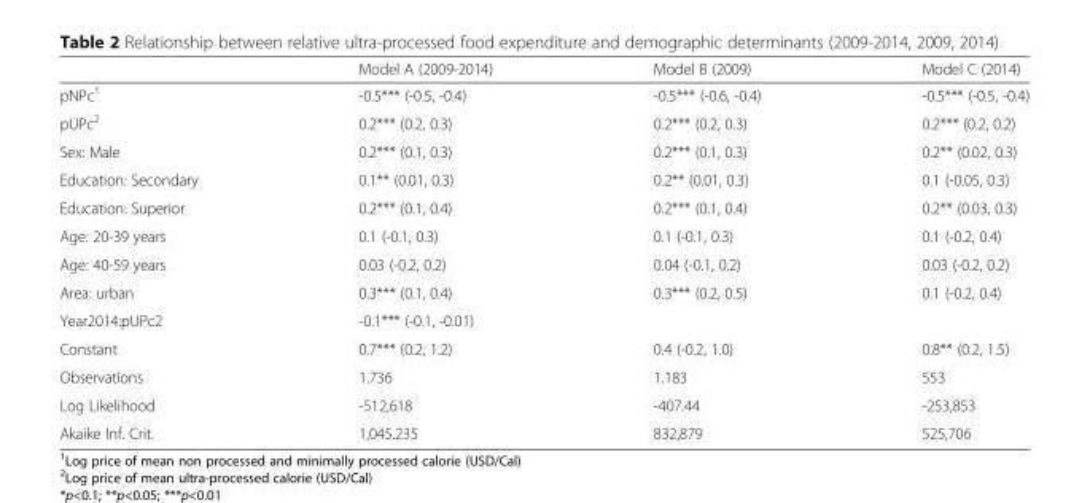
<table><thead><tr><td></td><td>Model A (2009-2014)</td><td>Model B (2009)</td><td>Model C (2014)</td></tr></thead><tbody><tr><td>pNPc<sup>1</sup></td><td>-0.5*** (-0.5, -0.4)</td><td>-0.5*** (-0.6, -0.4)</td><td>-0.5*** (-0.5, -0.4)</td></tr><tr><td>pUPc<sup>2</sup></td><td>0.2*** (0.2, 0.3)</td><td>0.2*** (0.2, 0.3)</td><td>0.2*** (0.2, 0.2)</td></tr><tr><td>Sex: Male</td><td>0.2*** (0.1, 0.3)</td><td>0.2*** (0.1, 0.3)</td><td>0.2** (0.02, 0.3)</td></tr><tr><td>Education: Secondary</td><td>0.1** (0.01, 0.3)</td><td>0.2** (0.01, 0.3)</td><td>0.1 (-0.05, 0.3)</td></tr><tr><td>Education: Superior</td><td>0.2*** (0.1, 0.4)</td><td>0.2*** (0.1, 0.4)</td><td>0.2** (0.03, 0.3)</td></tr><tr><td>Age: 20-39 years</td><td>0.1 (-0.1, 0.3)</td><td>0.1 (-0.1, 0.3)</td><td>0.1 (-0.2, 0.4)</td></tr><tr><td>Age: 40-59 years</td><td>0.03 (-0.2, 0.2)</td><td>0.04 (-0.1, 0.2)</td><td>0.03 (-0.2, 0.2)</td></tr><tr><td>Area: urban</td><td>0.3*** (0.1, 0.4)</td><td>0.3*** (0.2, 0.5)</td><td>0.1 (-0.2, 0.4)</td></tr><tr><td>Year2014:pUPc2</td><td>-0.1*** (-0.1, -0.01)</td><td></td><td></td></tr><tr><td>Constant</td><td>0.7*** (0.2, 1.2)</td><td>0.4 (-0.2, 1.0)</td><td>0.8** (0.2, 1.5)</td></tr><tr><td>Observations</td><td>1.736</td><td>1.183</td><td>553</td></tr><tr><td>Log Likelihood</td><td>-512,618</td><td>-407.44</td><td>-253,853</td></tr><tr><td>Akaike Inf. Crit.</td><td>1,045.235</td><td>832,879</td><td>525,706</td></tr></tbody></table>